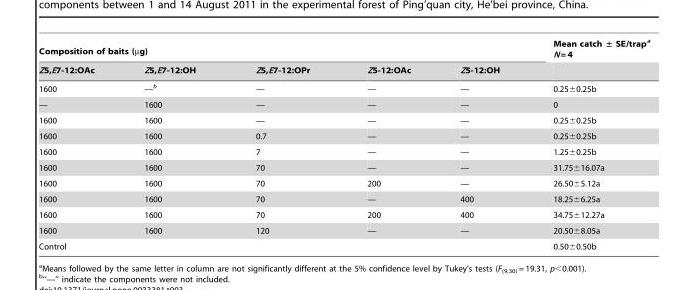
<table><thead><tr><td colspan="5">Composition of baits (µg)</td><td rowspan="2">Mean catch ± SE/trap<sup>a</sup> N = 4</td></tr><tr><td>Z5,E7-12:OAc</td><td>Z5,E7-12:OH</td><td>Z5,E7-12:OPr</td><td>Z5-12:OAc</td><td>Z5-12:OH</td></tr></thead><tbody><tr><td>1600</td><td>—b</td><td>—</td><td>—</td><td>—</td><td>0.25±0.25b</td></tr><tr><td>—</td><td>1600</td><td>—</td><td>—</td><td>—</td><td>0</td></tr><tr><td>1600</td><td>1600</td><td>—</td><td>—</td><td>—</td><td>0.25±0.25b</td></tr><tr><td>1600</td><td>1600</td><td>0.7</td><td>—</td><td>—</td><td>0.25±0.25b</td></tr><tr><td>1600</td><td>1600</td><td>7</td><td>—</td><td>—</td><td>1.25±0.25b</td></tr><tr><td>1600</td><td>1600</td><td>70</td><td>—</td><td>—</td><td>31.75±16.07a</td></tr><tr><td>1600</td><td>1600</td><td>70</td><td>200</td><td>—</td><td>26.50±5.12a</td></tr><tr><td>1600</td><td>1600</td><td>70</td><td>—</td><td>400</td><td>18.25±6.25a</td></tr><tr><td>1600</td><td>1600</td><td>70</td><td>200</td><td>400</td><td>34.75±12.27a</td></tr><tr><td>1600</td><td>1600</td><td>120</td><td>—</td><td>—</td><td>20.50±8.05a</td></tr><tr><td>Control</td><td></td><td></td><td></td><td></td><td>0.50±0.50b</td></tr></tbody></table>